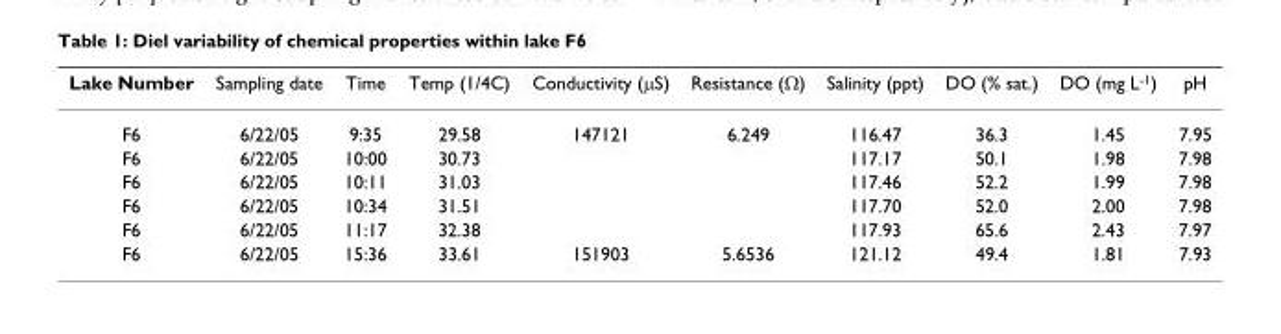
<table><thead><tr><td>Lake Number</td><td>Sampling date</td><td>Time</td><td>Temp (1/4C)</td><td>Conductivity (μS)</td><td>Resistance (Ω)</td><td>Salinity (ppt)</td><td>DO (% sat.)</td><td>DO (mg L<sup>-1</sup>)</td><td>pH</td></tr></thead><tbody><tr><td>F6</td><td>6/22/05</td><td>9:35</td><td>29.58</td><td>147121</td><td>6.249</td><td>116.47</td><td>36.3</td><td>1.45</td><td>7.95</td></tr><tr><td>F6</td><td>6/22/05</td><td>10:00</td><td>30.73</td><td></td><td></td><td>117.17</td><td>50.1</td><td>1.98</td><td>7.98</td></tr><tr><td>F6</td><td>6/22/05</td><td>10:11</td><td>31.03</td><td></td><td></td><td>117.46</td><td>52.2</td><td>1.99</td><td>7.98</td></tr><tr><td>F6</td><td>6/22/05</td><td>10:34</td><td>31.51</td><td></td><td></td><td>117.70</td><td>52.0</td><td>2.00</td><td>7.98</td></tr><tr><td>F6</td><td>6/22/05</td><td>11:17</td><td>32.38</td><td></td><td></td><td>117.93</td><td>65.6</td><td>2.43</td><td>7.97</td></tr><tr><td>F6</td><td>6/22/05</td><td>15:36</td><td>33.61</td><td>151903</td><td>5.6536</td><td>121.12</td><td>49.4</td><td>1.81</td><td>7.93</td></tr></tbody></table>